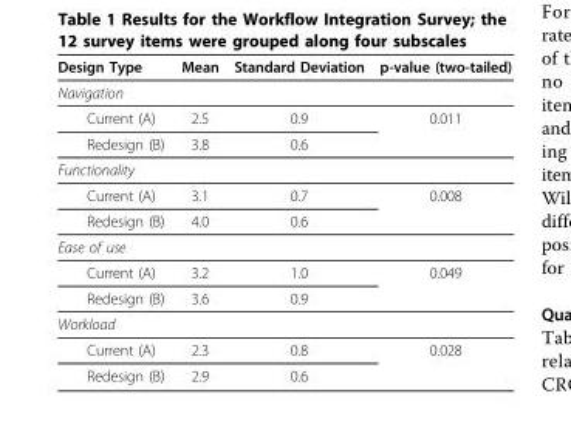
<table><thead><tr><td>Design Type</td><td>Mean</td><td>Standard Deviation</td><td>p-value (two-tailed)</td></tr></thead><tbody><tr><td colspan="4">Navigation</td></tr><tr><td>Current (A)</td><td>2.5</td><td>0.9</td><td>0.011</td></tr><tr><td>Redesign (B)</td><td>3.8</td><td>0.6</td><td></td></tr><tr><td colspan="4">Functionality</td></tr><tr><td>Current (A)</td><td>3.1</td><td>0.7</td><td>0.008</td></tr><tr><td>Redesign (B)</td><td>4.0</td><td>0.6</td><td></td></tr><tr><td colspan="4">Ease of use</td></tr><tr><td>Current (A)</td><td>3.2</td><td>1.0</td><td>0.049</td></tr><tr><td>Redesign (B)</td><td>3.6</td><td>0.9</td><td></td></tr><tr><td colspan="4">Workload</td></tr><tr><td>Current (A)</td><td>2.3</td><td>0.8</td><td>0.028</td></tr><tr><td>Redesign (B)</td><td>2.9</td><td>0.6</td><td></td></tr></tbody></table>